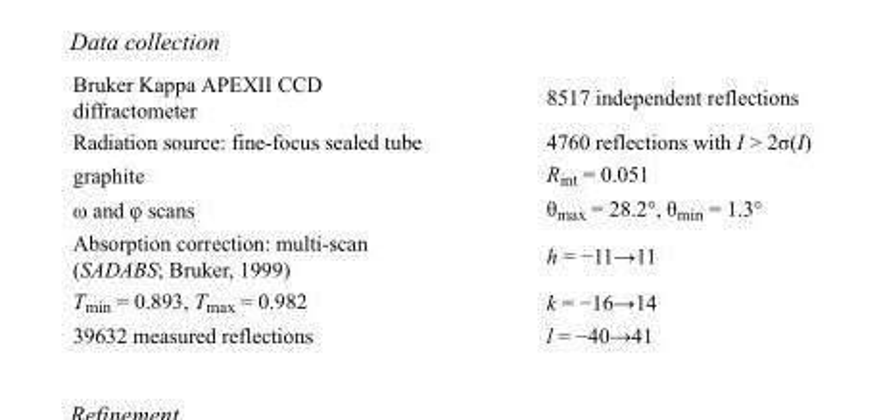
<table><tbody><tr><td>Bruker Kappa APEXII CCD diffractometer</td><td>8517 independent reflections</td></tr><tr><td>Radiation source: fine-focus sealed tube</td><td>4760 reflections with I &gt; 2σ(I)</td></tr><tr><td>graphite</td><td>R<sub>int</sub> = 0.051</td></tr><tr><td>ω and φ scans</td><td>θ<sub>max</sub> = 28.2°, θ<sub>min</sub> = 1.3°</td></tr><tr><td>Absorption correction: multi-scan (SADABS; Bruker, 1999)</td><td>h = −11→11</td></tr><tr><td>T<sub>min</sub> = 0.893, T<sub>max</sub> = 0.982</td><td>k = −16→14</td></tr><tr><td>39632 measured reflections</td><td>l = −40→41</td></tr></tbody></table>